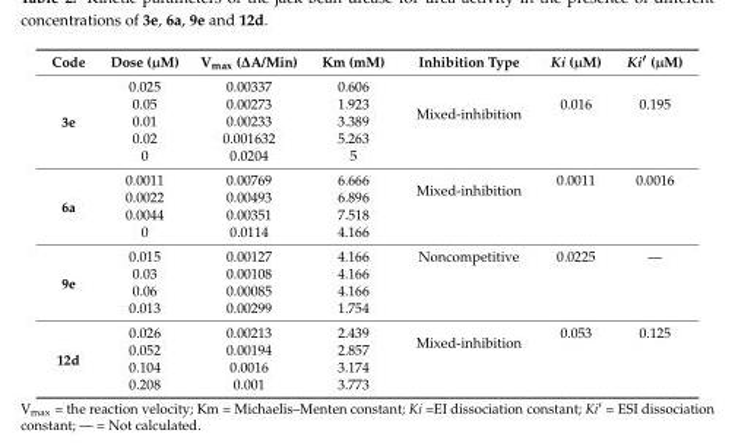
<table><thead><tr><td>Code</td><td>Dose (µM)</td><td>Vmax (∆A/Min)</td><td>Km (mM)</td><td>Inhibition Type</td><td>Ki (µM)</td><td>Ki′ (µM)</td></tr></thead><tbody><tr><td rowspan="5">3e</td><td>0.025</td><td>0.00337</td><td>0.606</td><td></td><td></td><td></td></tr><tr><td>0.05</td><td>0.00273</td><td>1.923</td><td rowspan="2">Mixed-inhibition</td><td>0.016</td><td>0.195</td></tr><tr><td>0.01</td><td>0.00233</td><td>3.389</td><td></td><td></td></tr><tr><td>0.02</td><td>0.001632</td><td>5.263</td><td></td><td></td><td></td></tr><tr><td>0</td><td>0.0204</td><td>5</td><td></td><td></td><td></td></tr><tr><td rowspan="4">6a</td><td>0.0011</td><td>0.00769</td><td>6.666</td><td rowspan="2">Mixed-inhibition</td><td>0.0011</td><td>0.0016</td></tr><tr><td>0.0022</td><td>0.00493</td><td>6.896</td><td></td><td></td></tr><tr><td>0.0044</td><td>0.00351</td><td>7.518</td><td></td><td></td><td></td></tr><tr><td>0</td><td>0.0114</td><td>4.166</td><td></td><td></td><td></td></tr><tr><td rowspan="4">9e</td><td>0.015</td><td>0.00127</td><td>4.166</td><td>Noncompetitive</td><td>0.0225</td><td>—</td></tr><tr><td>0.03</td><td>0.00108</td><td>4.166</td><td></td><td></td><td></td></tr><tr><td>0.06</td><td>0.00085</td><td>4.166</td><td></td><td></td><td></td></tr><tr><td>0.013</td><td>0.00299</td><td>1.754</td><td></td><td></td><td></td></tr><tr><td rowspan="4">12d</td><td>0.026</td><td>0.00213</td><td>2.439</td><td rowspan="2">Mixed-inhibition</td><td>0.053</td><td>0.125</td></tr><tr><td>0.052</td><td>0.00194</td><td>2.857</td><td></td><td></td></tr><tr><td>0.104</td><td>0.0016</td><td>3.174</td><td></td><td></td><td></td></tr><tr><td>0.208</td><td>0.001</td><td>3.773</td><td></td><td></td><td></td></tr></tbody></table>